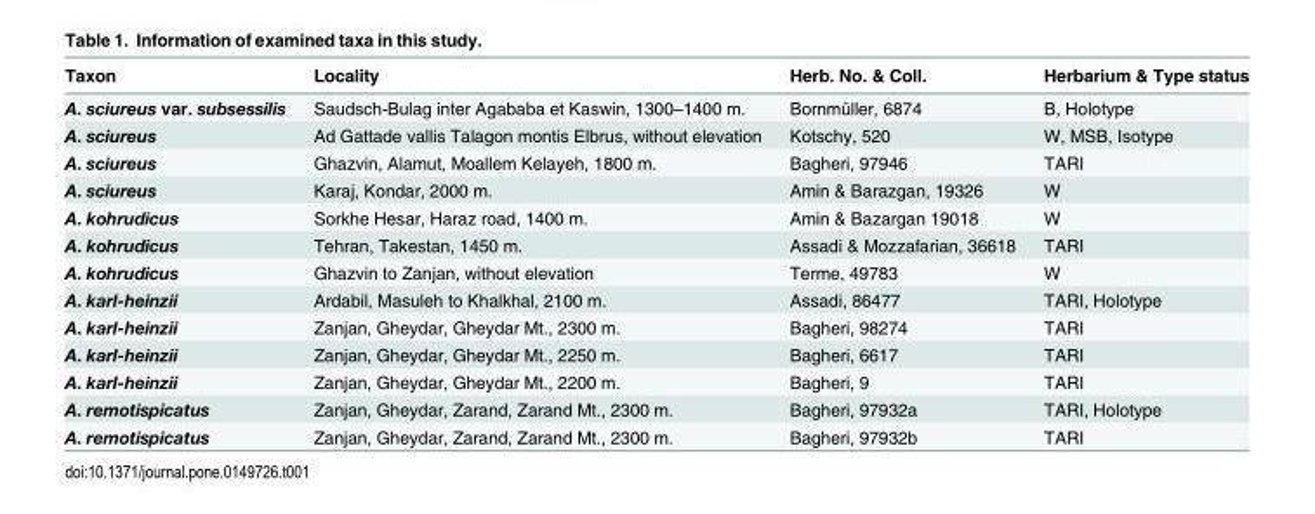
<table><thead><tr><td>Taxon</td><td>Locality</td><td>Herb. No. &amp; Coll.</td><td>Herbarium &amp; Type status</td></tr></thead><tbody><tr><td>A. sciureus var. subsessilis</td><td>Saudsch-Bulag inter Agababa et Kaswin, 1300–1400 m.</td><td>Bornmüller, 6874</td><td>B, Holotype</td></tr><tr><td>A. sciureus</td><td>Ad Gattade vallis Talagon montis Elbrus, without elevation</td><td>Kotschy, 520</td><td>W, MSB, Isotype</td></tr><tr><td>A. sciureus</td><td>Ghazvin, Alamut, Moallem Kelayeh, 1800 m.</td><td>Bagheri, 97946</td><td>TARI</td></tr><tr><td>A. sciureus</td><td>Karaj, Kondar, 2000 m.</td><td>Amin &amp; Barazgan, 19326</td><td>W</td></tr><tr><td>A. kohrudicus</td><td>Sorkhe Hesar, Haraz road, 1400 m.</td><td>Amin &amp; Bazargan 19018</td><td>W</td></tr><tr><td>A. kohrudicus</td><td>Tehran, Takestan, 1450 m.</td><td>Assadi &amp; Mozzafarian, 36618</td><td>TARI</td></tr><tr><td>A. kohrudicus</td><td>Ghazvin to Zanjan, without elevation</td><td>Terme, 49783</td><td>W</td></tr><tr><td>A. karl-heinzii</td><td>Ardabil, Masuleh to Khalkhal, 2100 m.</td><td>Assadi, 86477</td><td>TARI, Holotype</td></tr><tr><td>A. karl-heinzii</td><td>Zanjan, Gheydar, Gheydar Mt., 2300 m.</td><td>Bagheri, 98274</td><td>TARI</td></tr><tr><td>A. karl-heinzii</td><td>Zanjan, Gheydar, Gheydar Mt., 2250 m.</td><td>Bagheri, 6617</td><td>TARI</td></tr><tr><td>A. karl-heinzii</td><td>Zanjan, Gheydar, Gheydar Mt., 2200 m.</td><td>Bagheri, 9</td><td>TARI</td></tr><tr><td>A. remotispicatus</td><td>Zanjan, Gheydar, Zarand, Zarand Mt., 2300 m.</td><td>Bagheri, 97932a</td><td>TARI, Holotype</td></tr><tr><td>A. remotispicatus</td><td>Zanjan, Gheydar, Zarand, Zarand Mt., 2300 m.</td><td>Bagheri, 97932b</td><td>TARI</td></tr></tbody></table>